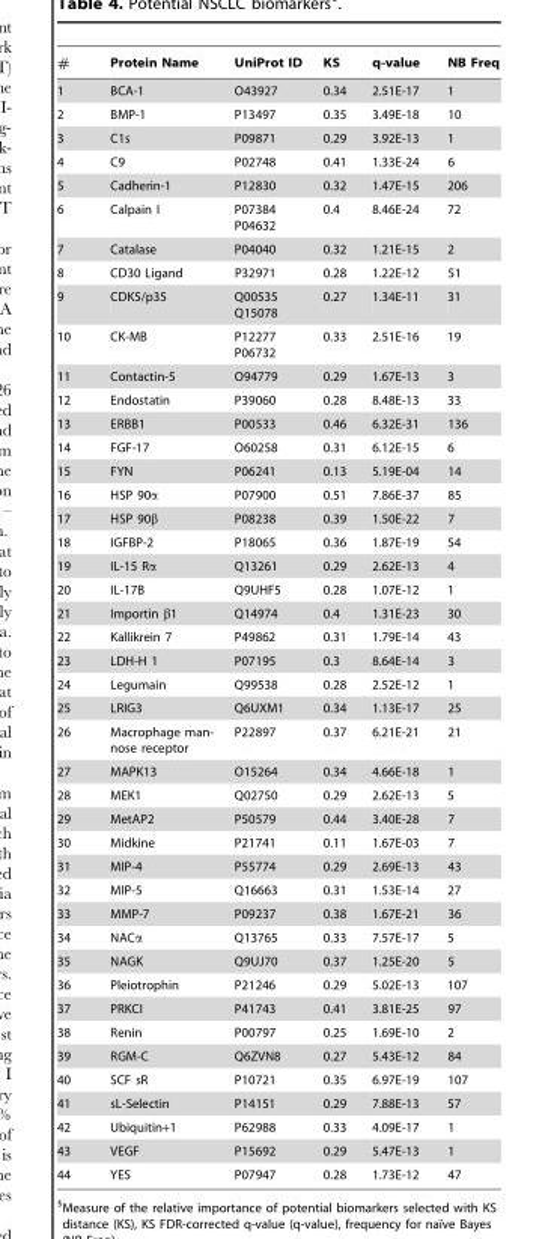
<table><thead><tr><td>#</td><td>Protein Name</td><td>UniProt ID</td><td>KS</td><td>q-value</td><td>NB Freq</td></tr></thead><tbody><tr><td>1</td><td>BCA-1</td><td>O43927</td><td>0.34</td><td>2.51E-17</td><td>1</td></tr><tr><td>2</td><td>BMP-1</td><td>P13497</td><td>0.35</td><td>3.49E-18</td><td>10</td></tr><tr><td>3</td><td>C1s</td><td>P09871</td><td>0.29</td><td>3.92E-13</td><td>1</td></tr><tr><td>4</td><td>C9</td><td>P02748</td><td>0.41</td><td>1.33E-24</td><td>6</td></tr><tr><td>5</td><td>Cadherin-1</td><td>P12830</td><td>0.32</td><td>1.47E-15</td><td>206</td></tr><tr><td>6</td><td>Calpain I</td><td>P07384 P04632</td><td>0.4</td><td>8.46E-24</td><td>72</td></tr><tr><td>7</td><td>Catalase</td><td>P04040</td><td>0.32</td><td>1.21E-15</td><td>2</td></tr><tr><td>8</td><td>CD30 Ligand</td><td>P32971</td><td>0.28</td><td>1.22E-12</td><td>51</td></tr><tr><td>9</td><td>CDK5/p35</td><td>Q00535 Q15078</td><td>0.27</td><td>1.34E-11</td><td>31</td></tr><tr><td>10</td><td>CK-MB</td><td>P12277 P06732</td><td>0.33</td><td>2.51E-16</td><td>19</td></tr><tr><td>11</td><td>Contactin-5</td><td>O94779</td><td>0.29</td><td>1.67E-13</td><td>3</td></tr><tr><td>12</td><td>Endostatin</td><td>P39060</td><td>0.28</td><td>8.48E-13</td><td>33</td></tr><tr><td>13</td><td>ERBB1</td><td>P00533</td><td>0.46</td><td>6.32E-31</td><td>136</td></tr><tr><td>14</td><td>FGF-17</td><td>O60258</td><td>0.31</td><td>6.12E-15</td><td>6</td></tr><tr><td>15</td><td>FYN</td><td>P06241</td><td>0.13</td><td>5.19E-04</td><td>14</td></tr><tr><td>16</td><td>HSP 90α</td><td>P07900</td><td>0.51</td><td>7.86E-37</td><td>85</td></tr><tr><td>17</td><td>HSP 90β</td><td>P08238</td><td>0.39</td><td>1.50E-22</td><td>7</td></tr><tr><td>18</td><td>IGFBP-2</td><td>P18065</td><td>0.36</td><td>1.87E-19</td><td>54</td></tr><tr><td>19</td><td>IL-15 Rα</td><td>Q13261</td><td>0.29</td><td>2.62E-13</td><td>4</td></tr><tr><td>20</td><td>IL-17B</td><td>Q9UHF5</td><td>0.28</td><td>1.07E-12</td><td>1</td></tr><tr><td>21</td><td>Importin β1</td><td>Q14974</td><td>0.4</td><td>1.31E-23</td><td>30</td></tr><tr><td>22</td><td>Kallikrein 7</td><td>P49862</td><td>0.31</td><td>1.79E-14</td><td>43</td></tr><tr><td>23</td><td>LDH-H 1</td><td>P07195</td><td>0.3</td><td>8.64E-14</td><td>3</td></tr><tr><td>24</td><td>Legumain</td><td>Q99538</td><td>0.28</td><td>2.52E-12</td><td>1</td></tr><tr><td>25</td><td>LRIG3</td><td>Q6UXM1</td><td>0.34</td><td>1.13E-17</td><td>25</td></tr><tr><td>26</td><td>Macrophage man- nose receptor</td><td>P22897</td><td>0.37</td><td>6.21E-21</td><td>21</td></tr><tr><td>27</td><td>MAPK13</td><td>O15264</td><td>0.34</td><td>4.66E-18</td><td>1</td></tr><tr><td>28</td><td>MEK1</td><td>Q02750</td><td>0.29</td><td>2.62E-13</td><td>5</td></tr><tr><td>29</td><td>MetAP2</td><td>P50579</td><td>0.44</td><td>3.40E-28</td><td>7</td></tr><tr><td>30</td><td>Midkine</td><td>P21741</td><td>0.11</td><td>1.67E-03</td><td>7</td></tr><tr><td>31</td><td>MIP-4</td><td>P55774</td><td>0.29</td><td>2.69E-13</td><td>43</td></tr><tr><td>32</td><td>MIP-5</td><td>Q16663</td><td>0.31</td><td>1.53E-14</td><td>27</td></tr><tr><td>33</td><td>MMP-7</td><td>P09237</td><td>0.38</td><td>1.67E-21</td><td>36</td></tr><tr><td>34</td><td>NACα</td><td>Q13765</td><td>0.33</td><td>7.57E-17</td><td>5</td></tr><tr><td>35</td><td>NAGK</td><td>Q9UJ70</td><td>0.37</td><td>1.25E-20</td><td>5</td></tr><tr><td>36</td><td>Pleiotrophin</td><td>P21246</td><td>0.29</td><td>5.02E-13</td><td>107</td></tr><tr><td>37</td><td>PRKCI</td><td>P41743</td><td>0.41</td><td>3.81E-25</td><td>97</td></tr><tr><td>38</td><td>Renin</td><td>P00797</td><td>0.25</td><td>1.69E-10</td><td>2</td></tr><tr><td>39</td><td>RGM-C</td><td>Q6ZVN8</td><td>0.27</td><td>5.43E-12</td><td>84</td></tr><tr><td>40</td><td>SCF sR</td><td>P10721</td><td>0.35</td><td>6.97E-19</td><td>107</td></tr><tr><td>41</td><td>sL-Selectin</td><td>P14151</td><td>0.29</td><td>7.88E-13</td><td>57</td></tr><tr><td>42</td><td>Ubiquitin+1</td><td>P62988</td><td>0.33</td><td>4.09E-17</td><td>1</td></tr><tr><td>43</td><td>VEGF</td><td>P15692</td><td>0.29</td><td>5.47E-13</td><td>1</td></tr><tr><td>44</td><td>YES</td><td>P07947</td><td>0.28</td><td>1.73E-12</td><td>47</td></tr></tbody></table>